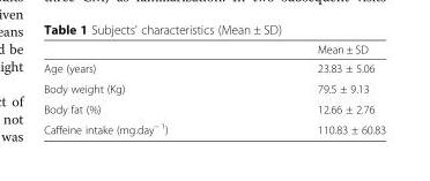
<table><thead><tr><td></td><td>Mean ± SD</td></tr></thead><tbody><tr><td>Age (years)</td><td>23.83 ± 5.06</td></tr><tr><td>Body weight (Kg)</td><td>79.5 ± 9.13</td></tr><tr><td>Body fat (%)</td><td>12.66 ± 2.76</td></tr><tr><td>Caffeine intake (mg.day<sup>− 1</sup>)</td><td>110.83 ± 60.83</td></tr></tbody></table>